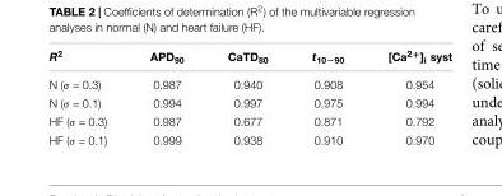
<table><thead><tr><td>R<sup>2</sup></td><td>APD<sub>90</sub></td><td>CaTD<sub>80</sub></td><td>t<sub>10−90</sub></td><td>[Ca<sup>2+</sup>]<sub>i</sub> syst</td></tr></thead><tbody><tr><td>N (σ = 0.3)</td><td>0.987</td><td>0.940</td><td>0.908</td><td>0.954</td></tr><tr><td>N (σ = 0.1)</td><td>0.994</td><td>0.997</td><td>0.975</td><td>0.994</td></tr><tr><td>HF (σ = 0.3)</td><td>0.987</td><td>0.677</td><td>0.871</td><td>0.792</td></tr><tr><td>HF (σ = 0.1)</td><td>0.999</td><td>0.938</td><td>0.910</td><td>0.970</td></tr></tbody></table>